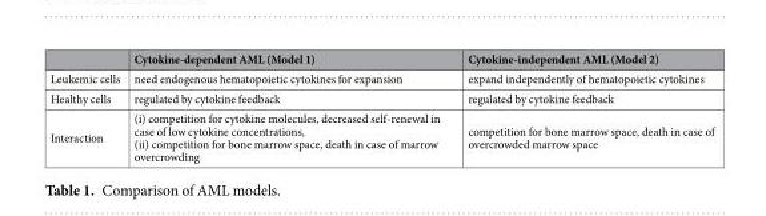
<table><thead><tr><td></td><td>Cytokine-dependent AML (Model 1)</td><td>Cytokine-independent AML (Model 2)</td></tr></thead><tbody><tr><td>Leukemic cells</td><td>need endogenous hematopoietic cytokines for expansion</td><td>expand independently of hematopoietic cytokines</td></tr><tr><td>Healthy cells</td><td>regulated by cytokine feedback</td><td>regulated by cytokine feedback</td></tr><tr><td>Interaction</td><td>(i) competition for cytokine molecules, decreased self-renewal in case of low cytokine concentrations, (ii) competition for bone marrow space, death in case of marrow overcrowding</td><td>competition for bone marrow space, death in case of overcrowded marrow space</td></tr></tbody></table>